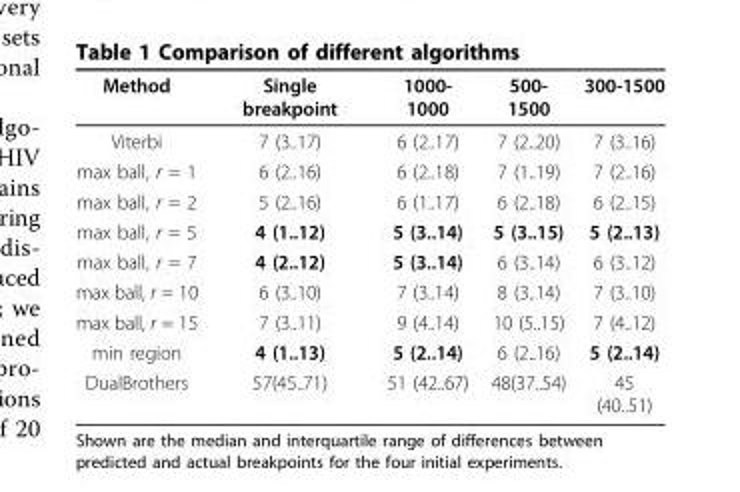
<table><thead><tr><td>Method</td><td>Single breakpoint</td><td>1000- 1000</td><td>500- 1500</td><td>300-1500</td></tr></thead><tbody><tr><td>Viterbi</td><td>7 (3..17)</td><td>6 (2..17)</td><td>7 (2..20)</td><td>7 (3..16)</td></tr><tr><td>max ball, r = 1</td><td>6 (2..16)</td><td>6 (2..18)</td><td>7 (1..19)</td><td>7 (2..16)</td></tr><tr><td>max ball, r = 2</td><td>5 (2..16)</td><td>6 (1..17)</td><td>6 (2..18)</td><td>6 (2..15)</td></tr><tr><td>max ball, r = 5</td><td>4 (1..12)</td><td>5 (3..14)</td><td>5 (3..15)</td><td>5 (2..13)</td></tr><tr><td>max ball, r = 7</td><td>4 (2..12)</td><td>5 (3..14)</td><td>6 (3..14)</td><td>6 (3..12)</td></tr><tr><td>max ball, r = 10</td><td>6 (3..10)</td><td>7 (3..14)</td><td>8 (3..14)</td><td>7 (3..10)</td></tr><tr><td>max ball, r = 15</td><td>7 (3..11)</td><td>9 (4..14)</td><td>10 (5..15)</td><td>7 (4..12)</td></tr><tr><td>min region</td><td>4 (1..13)</td><td>5 (2..14)</td><td>6 (2..16)</td><td>5 (2..14)</td></tr><tr><td>DualBrothers</td><td>57(45..71)</td><td>51 (42..67)</td><td>48(37..54)</td><td>45 (40..51)</td></tr></tbody></table>